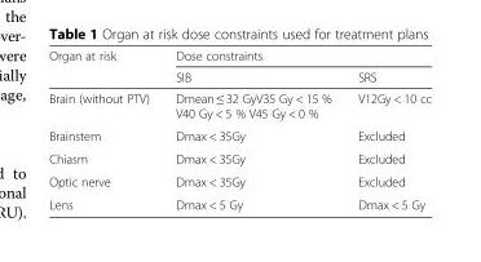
<table><thead><tr><td rowspan="2">Organ at risk</td><td colspan="2">Dose constraints</td></tr><tr><td>SIB</td><td>SRS</td></tr></thead><tbody><tr><td>Brain (without PTV)</td><td>Dmean ≤ 32 GyV35 Gy &lt; 15 % V40 Gy &lt; 5 % V45 Gy &lt; 0 %</td><td>V12Gy &lt; 10 cc</td></tr><tr><td>Brainstem</td><td>Dmax &lt; 35Gy</td><td>Excluded</td></tr><tr><td>Chiasm</td><td>Dmax &lt; 35Gy</td><td>Excluded</td></tr><tr><td>Optic nerve</td><td>Dmax &lt; 35Gy</td><td>Excluded</td></tr><tr><td>Lens</td><td>Dmax &lt; 5 Gy</td><td>Dmax &lt; 5 Gy</td></tr></tbody></table>